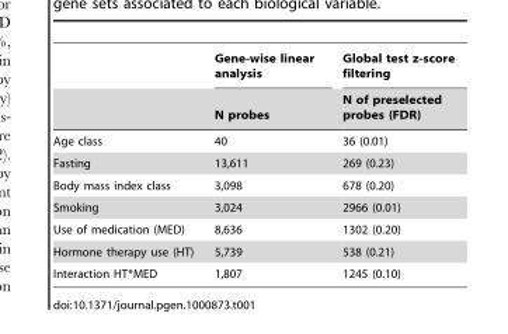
<table><thead><tr><td rowspan="2"></td><td rowspan="2">Gene-wise linear analysis N probes</td><td rowspan="2">Global test z-score filtering N of preselected probes (FDR)</td></tr><tr></tr></thead><tbody><tr><td>Age class</td><td>40</td><td>36 (0.01)</td></tr><tr><td>Fasting</td><td>13,611</td><td>269 (0.23)</td></tr><tr><td>Body mass index class</td><td>3,098</td><td>678 (0.20)</td></tr><tr><td>Smoking</td><td>3,024</td><td>2966 (0.01)</td></tr><tr><td>Use of medication (MED)</td><td>8,636</td><td>1302 (0.20)</td></tr><tr><td>Hormone therapy use (HT)</td><td>5,739</td><td>538 (0.21)</td></tr><tr><td>Interaction HT*MED</td><td>1,807</td><td>1245 (0.10)</td></tr></tbody></table>